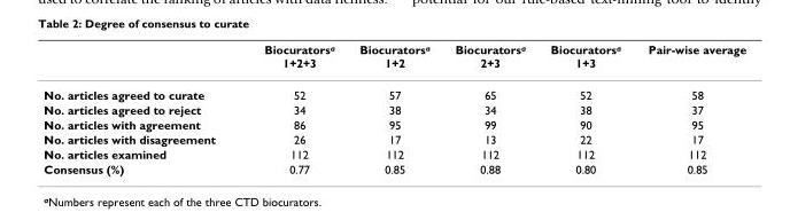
<table><thead><tr><td></td><td>Biocurators<sup>a</sup> 1+2+3</td><td>Biocurators<sup>a</sup> 1+2</td><td>Biocurators<sup>a</sup> 2+3</td><td>Biocurators<sup>a</sup> 1+3</td><td>Pair-wise average</td></tr></thead><tbody><tr><td>No. articles agreed to curate</td><td>52</td><td>57</td><td>65</td><td>52</td><td>58</td></tr><tr><td>No. articles agreed to reject</td><td>34</td><td>38</td><td>34</td><td>38</td><td>37</td></tr><tr><td>No. articles with agreement</td><td>86</td><td>95</td><td>99</td><td>90</td><td>95</td></tr><tr><td>No. articles with disagreement</td><td>26</td><td>17</td><td>13</td><td>22</td><td>17</td></tr><tr><td>No. articles examined</td><td>112</td><td>112</td><td>112</td><td>112</td><td>112</td></tr><tr><td>Consensus (%)</td><td>0.77</td><td>0.85</td><td>0.88</td><td>0.80</td><td>0.85</td></tr></tbody></table>